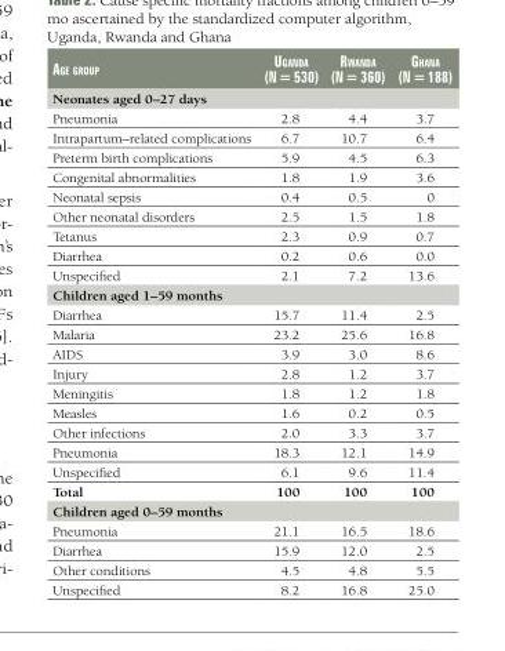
<table><thead><tr><td>age gRoUp</td><td>Uganda (n = 530)</td><td>Rwanda (n = 360)</td><td>ghana (n = 188)</td></tr></thead><tbody><tr><td colspan="4">Neonates aged 0–27 days</td></tr><tr><td>Pneumonia</td><td>2.8</td><td>4.4</td><td>3.7</td></tr><tr><td>Intrapartum–related complications</td><td>6.7</td><td>10.7</td><td>6.4</td></tr><tr><td>Preterm birth complications</td><td>5.9</td><td>4.5</td><td>6.3</td></tr><tr><td>Congenital abnormalities</td><td>1.8</td><td>1.9</td><td>3.6</td></tr><tr><td>Neonatal sepsis</td><td>0.4</td><td>0.5</td><td>0</td></tr><tr><td>Other neonatal disorders</td><td>2.5</td><td>1.5</td><td>1.8</td></tr><tr><td>Tetanus</td><td>2.3</td><td>0.9</td><td>0.7</td></tr><tr><td>Diarrhea</td><td>0.2</td><td>0.6</td><td>0.0</td></tr><tr><td>Unspecified</td><td>2.1</td><td>7.2</td><td>13.6</td></tr><tr><td colspan="4">Children aged 1–59 months</td></tr><tr><td>Diarrhea</td><td>15.7</td><td>11.4</td><td>2.5</td></tr><tr><td>Malaria</td><td>23.2</td><td>25.6</td><td>16.8</td></tr><tr><td>AIDS</td><td>3.9</td><td>3.0</td><td>8.6</td></tr><tr><td>Injury</td><td>2.8</td><td>1.2</td><td>3.7</td></tr><tr><td>Meningitis</td><td>1.8</td><td>1.2</td><td>1.8</td></tr><tr><td>Measles</td><td>1.6</td><td>0.2</td><td>0.5</td></tr><tr><td>Other infections</td><td>2.0</td><td>3.3</td><td>3.7</td></tr><tr><td>Pneumonia</td><td>18.3</td><td>12.1</td><td>14.9</td></tr><tr><td>Unspecified</td><td>6.1</td><td>9.6</td><td>11.4</td></tr><tr><td>Total</td><td>100</td><td>100</td><td>100</td></tr><tr><td colspan="4">Children aged 0–59 months</td></tr><tr><td>Pneumonia</td><td>21.1</td><td>16.5</td><td>18.6</td></tr><tr><td>Diarrhea</td><td>15.9</td><td>12.0</td><td>2.5</td></tr><tr><td>Other conditions</td><td>4.5</td><td>4.8</td><td>5.5</td></tr><tr><td>Unspecified</td><td>8.2</td><td>16.8</td><td>25.0</td></tr></tbody></table>